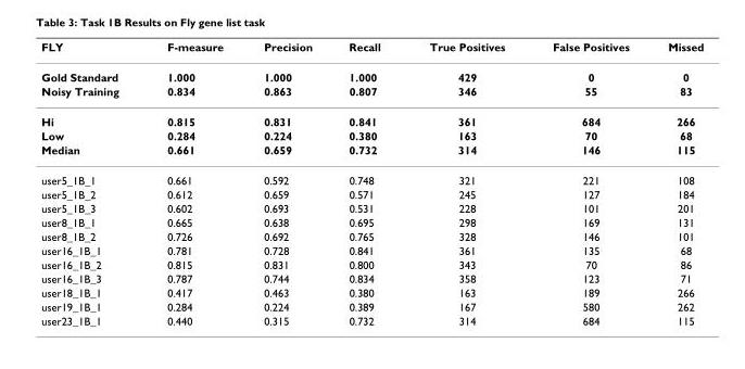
<table><thead><tr><td>FLY</td><td>F-measure</td><td>Precision</td><td>Recall</td><td>True Positives</td><td>False Positives</td><td>Missed</td></tr></thead><tbody><tr><td>Gold Standard</td><td>1.000</td><td>1.000</td><td>1.000</td><td>429</td><td>0</td><td>0</td></tr><tr><td>Noisy Training</td><td>0.834</td><td>0.863</td><td>0.807</td><td>346</td><td>55</td><td>83</td></tr><tr><td>Hi</td><td>0.815</td><td>0.831</td><td>0.841</td><td>361</td><td>684</td><td>266</td></tr><tr><td>Low</td><td>0.284</td><td>0.224</td><td>0.380</td><td>163</td><td>70</td><td>68</td></tr><tr><td>Median</td><td>0.661</td><td>0.659</td><td>0.732</td><td>314</td><td>146</td><td>115</td></tr><tr><td>user5_1B_1</td><td>0.661</td><td>0.592</td><td>0.748</td><td>321</td><td>221</td><td>108</td></tr><tr><td>user5_1B_2</td><td>0.612</td><td>0.659</td><td>0.571</td><td>245</td><td>127</td><td>184</td></tr><tr><td>user5_1B_3</td><td>0.602</td><td>0.693</td><td>0.531</td><td>228</td><td>101</td><td>201</td></tr><tr><td>user8_1B_1</td><td>0.665</td><td>0.638</td><td>0.695</td><td>298</td><td>169</td><td>131</td></tr><tr><td>user8_1B_2</td><td>0.726</td><td>0.692</td><td>0.765</td><td>328</td><td>146</td><td>101</td></tr><tr><td>user16_1B_1</td><td>0.781</td><td>0.728</td><td>0.841</td><td>361</td><td>135</td><td>68</td></tr><tr><td>user16_1B_2</td><td>0.815</td><td>0.831</td><td>0.800</td><td>343</td><td>70</td><td>86</td></tr><tr><td>user16_1B_3</td><td>0.787</td><td>0.744</td><td>0.834</td><td>358</td><td>123</td><td>71</td></tr><tr><td>user18_1B_1</td><td>0.417</td><td>0.463</td><td>0.380</td><td>163</td><td>189</td><td>266</td></tr><tr><td>user19_1B_1</td><td>0.284</td><td>0.224</td><td>0.389</td><td>167</td><td>580</td><td>262</td></tr><tr><td>user23_1B_1</td><td>0.440</td><td>0.315</td><td>0.732</td><td>314</td><td>684</td><td>115</td></tr></tbody></table>